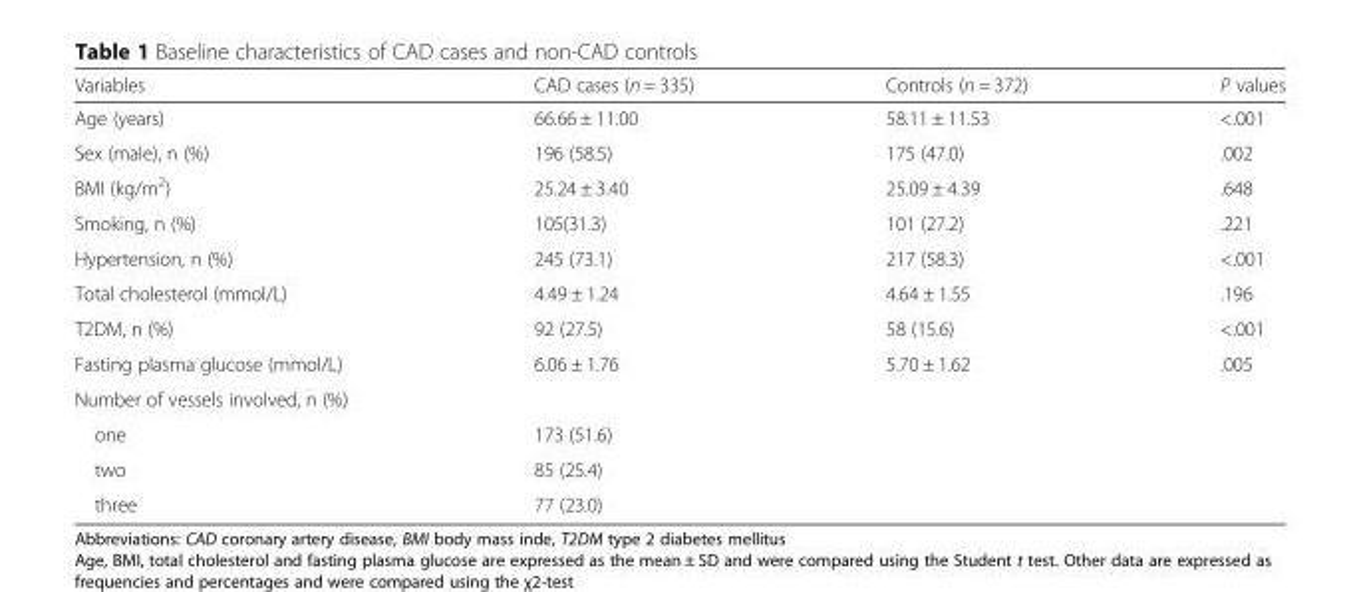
<table><thead><tr><td>Variables</td><td>CAD cases (n = 335)</td><td>Controls (n = 372)</td><td>P values</td></tr></thead><tbody><tr><td>Age (years)</td><td>66.66 ± 11.00</td><td>58.11 ± 11.53</td><td>&lt;.001</td></tr><tr><td>Sex (male), n (%)</td><td>196 (58.5)</td><td>175 (47.0)</td><td>.002</td></tr><tr><td>BMI (kg/m<sup>2</sup>)</td><td>25.24 ± 3.40</td><td>25.09 ± 4.39</td><td>.648</td></tr><tr><td>Smoking, n (%)</td><td>105(31.3)</td><td>101 (27.2)</td><td>.221</td></tr><tr><td>Hypertension, n (%)</td><td>245 (73.1)</td><td>217 (58.3)</td><td>&lt;.001</td></tr><tr><td>Total cholesterol (mmol/L)</td><td>4.49 ± 1.24</td><td>4.64 ± 1.55</td><td>.196</td></tr><tr><td>T2DM, n (%)</td><td>92 (27.5)</td><td>58 (15.6)</td><td>&lt;.001</td></tr><tr><td>Fasting plasma glucose (mmol/L)</td><td>6.06 ± 1.76</td><td>5.70 ± 1.62</td><td>.005</td></tr><tr><td colspan="4">Number of vessels involved, n (%)</td></tr><tr><td>one</td><td>173 (51.6)</td><td></td><td></td></tr><tr><td>two</td><td>85 (25.4)</td><td></td><td></td></tr><tr><td>three</td><td>77 (23.0)</td><td></td><td></td></tr></tbody></table>